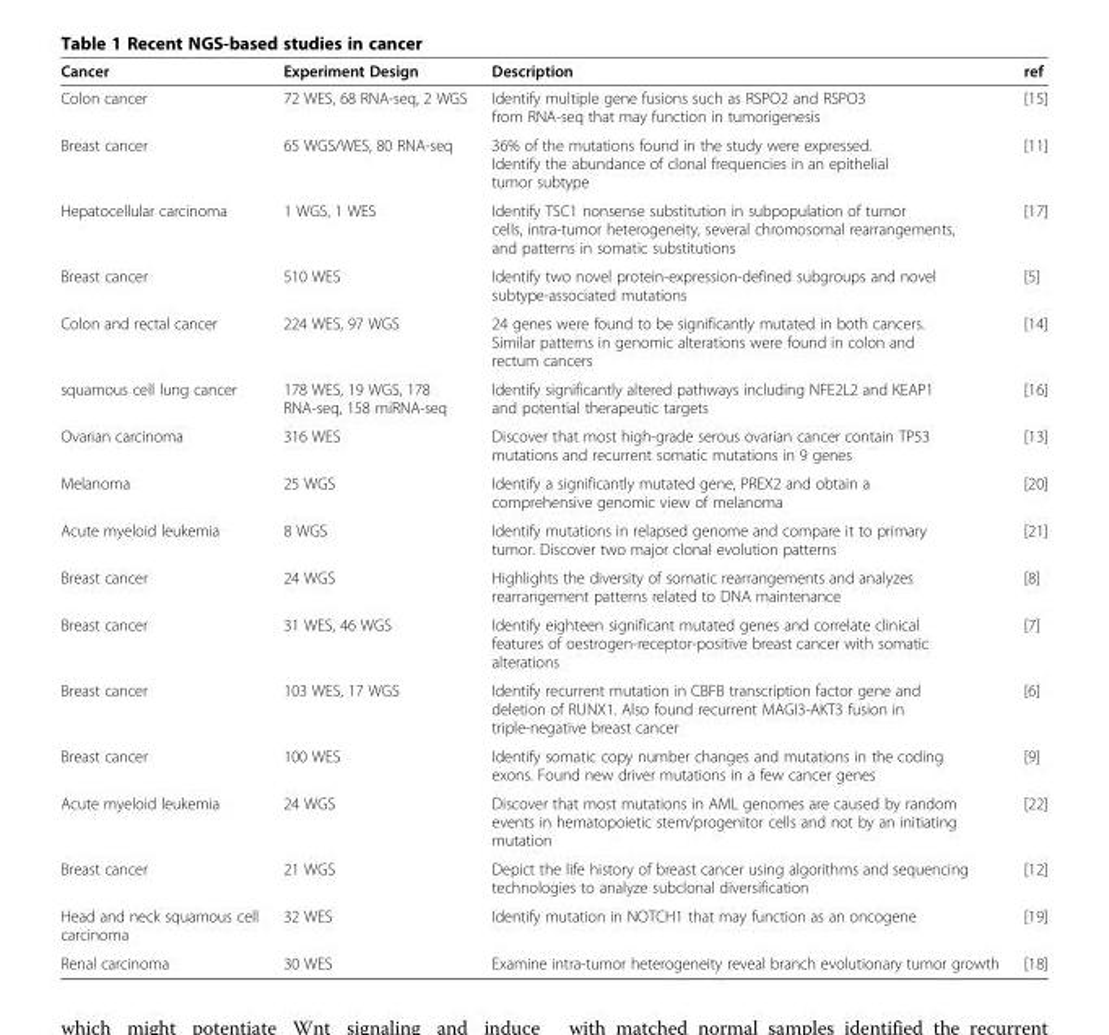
<table><thead><tr><td>Cancer</td><td>Experiment Design</td><td>Description</td><td>ref</td></tr></thead><tbody><tr><td>Colon cancer</td><td>72 WES, 68 RNA-seq, 2 WGS</td><td>Identify multiple gene fusions such as RSPO2 and RSPO3 from RNA-seq that may function in tumorigenesis</td><td>[15]</td></tr><tr><td>Breast cancer</td><td>65 WGS/WES, 80 RNA-seq</td><td>36% of the mutations found in the study were expressed. Identify the abundance of clonal frequencies in an epithelial tumor subtype</td><td>[11]</td></tr><tr><td>Hepatocellular carcinoma</td><td>1 WGS, 1 WES</td><td>Identify TSC1 nonsense substitution in subpopulation of tumor cells, intra-tumor heterogeneity, several chromosomal rearrangements, and patterns in somatic substitutions</td><td>[17]</td></tr><tr><td>Breast cancer</td><td>510 WES</td><td>Identify two novel protein-expression-defined subgroups and novel subtype-associated mutations</td><td>[5]</td></tr><tr><td>Colon and rectal cancer</td><td>224 WES, 97 WGS</td><td>24 genes were found to be significantly mutated in both cancers. Similar patterns in genomic alterations were found in colon and rectum cancers</td><td>[14]</td></tr><tr><td>squamous cell lung cancer</td><td>178 WES, 19 WGS, 178 RNA-seq, 158 miRNA-seq</td><td>Identify significantly altered pathways including NFE2L2 and KEAP1 and potential therapeutic targets</td><td>[16]</td></tr><tr><td>Ovarian carcinoma</td><td>316 WES</td><td>Discover that most high-grade serous ovarian cancer contain TP53 mutations and recurrent somatic mutations in 9 genes</td><td>[13]</td></tr><tr><td>Melanoma</td><td>25 WGS</td><td>Identify a significantly mutated gene, PREX2 and obtain a comprehensive genomic view of melanoma</td><td>[20]</td></tr><tr><td>Acute myeloid leukemia</td><td>8 WGS</td><td>Identify mutations in relapsed genome and compare it to primary tumor. Discover two major clonal evolution patterns</td><td>[21]</td></tr><tr><td>Breast cancer</td><td>24 WGS</td><td>Highlights the diversity of somatic rearrangements and analyzes rearrangement patterns related to DNA maintenance</td><td>[8]</td></tr><tr><td>Breast cancer</td><td>31 WES, 46 WGS</td><td>Identify eighteen significant mutated genes and correlate clinical features of oestrogen-receptor-positive breast cancer with somatic alterations</td><td>[7]</td></tr><tr><td>Breast cancer</td><td>103 WES, 17 WGS</td><td>Identify recurrent mutation in CBFB transcription factor gene and deletion of RUNX1. Also found recurrent MAGI3-AKT3 fusion in triple-negative breast cancer</td><td>[6]</td></tr><tr><td>Breast cancer</td><td>100 WES</td><td>Identify somatic copy number changes and mutations in the coding exons. Found new driver mutations in a few cancer genes</td><td>[9]</td></tr><tr><td>Acute myeloid leukemia</td><td>24 WGS</td><td>Discover that most mutations in AML genomes are caused by random events in hematopoietic stem/progenitor cells and not by an initiating mutation</td><td>[22]</td></tr><tr><td>Breast cancer</td><td>21 WGS</td><td>Depict the life history of breast cancer using algorithms and sequencing technologies to analyze subclonal diversification</td><td>[12]</td></tr><tr><td>Head and neck squamous cell carcinoma</td><td>32 WES</td><td>Identify mutation in NOTCH1 that may function as an oncogene</td><td>[19]</td></tr><tr><td>Renal carcinoma</td><td>30 WES</td><td>Examine intra-tumor heterogeneity reveal branch evolutionary tumor growth</td><td>[18]</td></tr></tbody></table>